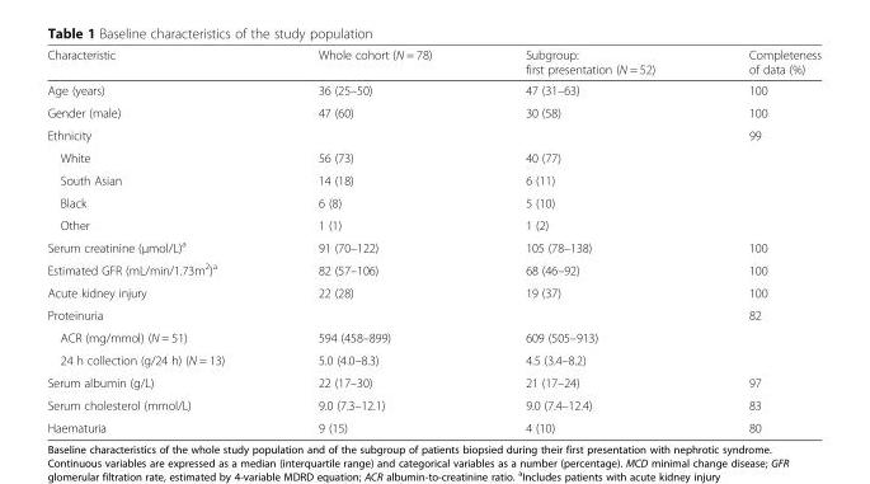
<table><thead><tr><td>Characteristic</td><td>Whole cohort (N = 78)</td><td>Subgroup: first presentation (N = 52)</td><td>Completeness of data (%)</td></tr></thead><tbody><tr><td>Age (years)</td><td>36 (25–50)</td><td>47 (31–63)</td><td>100</td></tr><tr><td>Gender (male)</td><td>47 (60)</td><td>30 (58)</td><td>100</td></tr><tr><td>Ethnicity</td><td></td><td></td><td>99</td></tr><tr><td>White</td><td>56 (73)</td><td>40 (77)</td><td></td></tr><tr><td>South Asian</td><td>14 (18)</td><td>6 (11)</td><td></td></tr><tr><td>Black</td><td>6 (8)</td><td>5 (10)</td><td></td></tr><tr><td>Other</td><td>1 (1)</td><td>1 (2)</td><td></td></tr><tr><td>Serum creatinine (μmol/L)<sup>a</sup></td><td>91 (70–122)</td><td>105 (78–138)</td><td>100</td></tr><tr><td>Estimated GFR (mL/min/1.73m<sup>2</sup>)<sup>a</sup></td><td>82 (57–106)</td><td>68 (46–92)</td><td>100</td></tr><tr><td>Acute kidney injury</td><td>22 (28)</td><td>19 (37)</td><td>100</td></tr><tr><td>Proteinuria</td><td></td><td></td><td>82</td></tr><tr><td>ACR (mg/mmol) (N = 51)</td><td>594 (458–899)</td><td>609 (505–913)</td><td></td></tr><tr><td>24 h collection (g/24 h) (N = 13)</td><td>5.0 (4.0–8.3)</td><td>4.5 (3.4–8.2)</td><td></td></tr><tr><td>Serum albumin (g/L)</td><td>22 (17–30)</td><td>21 (17–24)</td><td>97</td></tr><tr><td>Serum cholesterol (mmol/L)</td><td>9.0 (7.3–12.1)</td><td>9.0 (7.4–12.4)</td><td>83</td></tr><tr><td>Haematuria</td><td>9 (15)</td><td>4 (10)</td><td>80</td></tr></tbody></table>